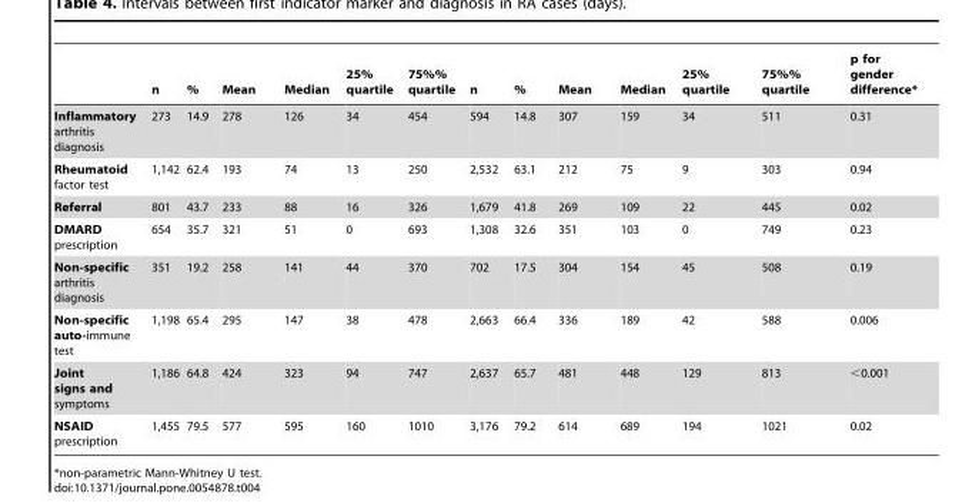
<table><thead><tr><td></td><td>n</td><td>%</td><td>Mean</td><td>Median</td><td>25% quartile</td><td>75%% quartile</td><td>n</td><td>%</td><td>Mean</td><td>Median</td><td>25% quartile</td><td>75%% quartile</td><td>p for gender difference*</td></tr></thead><tbody><tr><td>Inflammatory arthritis diagnosis</td><td>273</td><td>14.9</td><td>278</td><td>126</td><td>34</td><td>454</td><td>594</td><td>14.8</td><td>307</td><td>159</td><td>34</td><td>511</td><td>0.31</td></tr><tr><td>Rheumatoid factor test</td><td>1,142</td><td>62.4</td><td>193</td><td>74</td><td>13</td><td>250</td><td>2,532</td><td>63.1</td><td>212</td><td>75</td><td>9</td><td>303</td><td>0.94</td></tr><tr><td>Referral</td><td>801</td><td>43.7</td><td>233</td><td>88</td><td>16</td><td>326</td><td>1,679</td><td>41.8</td><td>269</td><td>109</td><td>22</td><td>445</td><td>0.02</td></tr><tr><td>DMARD prescription</td><td>654</td><td>35.7</td><td>321</td><td>51</td><td>0</td><td>693</td><td>1,308</td><td>32.6</td><td>351</td><td>103</td><td>0</td><td>749</td><td>0.23</td></tr><tr><td>Non-specific arthritis diagnosis</td><td>351</td><td>19.2</td><td>258</td><td>141</td><td>44</td><td>370</td><td>702</td><td>17.5</td><td>304</td><td>154</td><td>45</td><td>508</td><td>0.19</td></tr><tr><td>Non-specific auto-immune test</td><td>1,198</td><td>65.4</td><td>295</td><td>147</td><td>38</td><td>478</td><td>2,663</td><td>66.4</td><td>336</td><td>189</td><td>42</td><td>588</td><td>0.006</td></tr><tr><td>Joint signs and symptoms</td><td>1,186</td><td>64.8</td><td>424</td><td>323</td><td>94</td><td>747</td><td>2,637</td><td>65.7</td><td>481</td><td>448</td><td>129</td><td>813</td><td>&lt;0.001</td></tr><tr><td>NSAID prescription</td><td>1,455</td><td>79.5</td><td>577</td><td>595</td><td>160</td><td>1010</td><td>3,176</td><td>79.2</td><td>614</td><td>689</td><td>194</td><td>1021</td><td>0.02</td></tr></tbody></table>